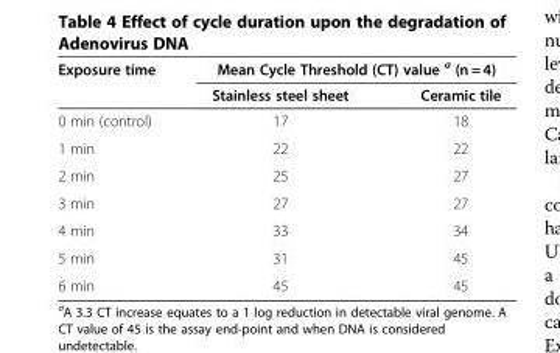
<table><thead><tr><td rowspan="2">Exposure time</td><td colspan="2">Mean Cycle Threshold (CT) value <sup>a</sup> (n = 4)</td></tr><tr><td>Stainless steel sheet</td><td>Ceramic tile</td></tr></thead><tbody><tr><td>0 min (control)</td><td>17</td><td>18</td></tr><tr><td>1 min</td><td>22</td><td>22</td></tr><tr><td>2 min</td><td>25</td><td>27</td></tr><tr><td>3 min</td><td>27</td><td>27</td></tr><tr><td>4 min</td><td>33</td><td>34</td></tr><tr><td>5 min</td><td>31</td><td>45</td></tr><tr><td>6 min</td><td>45</td><td>45</td></tr></tbody></table>